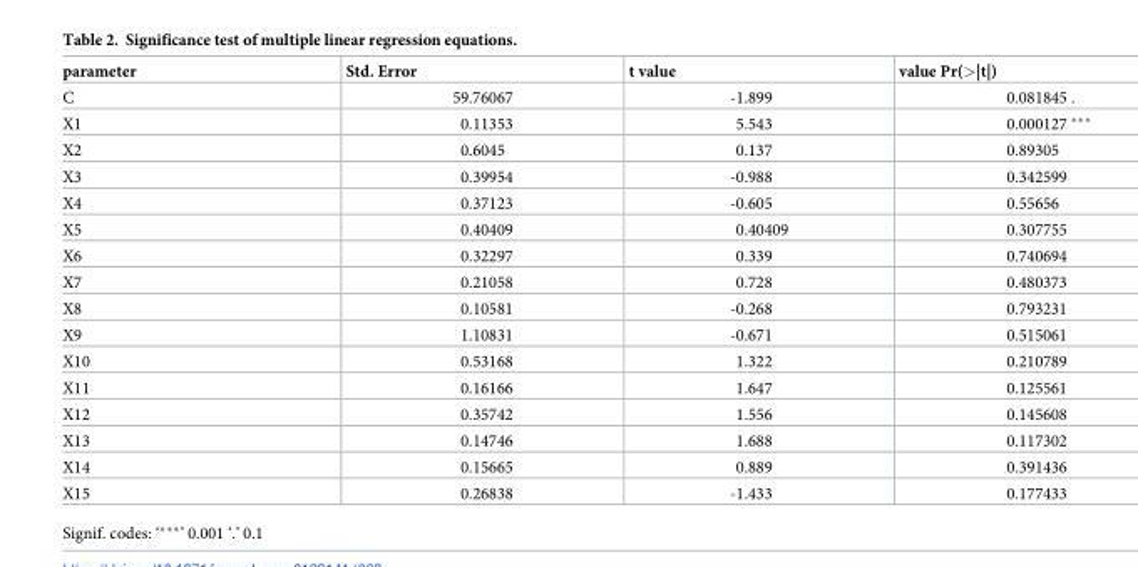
<table><thead><tr><td>parameter</td><td>Std. Error</td><td>t value</td><td>value Pr(&gt;|t|)</td></tr></thead><tbody><tr><td>C</td><td>59.76067</td><td>-1.899</td><td>0.081845 .</td></tr><tr><td>X1</td><td>0.11353</td><td>5.543</td><td>0.000127</td></tr><tr><td>X2</td><td>0.6045</td><td>0.137</td><td>0.89305</td></tr><tr><td>X3</td><td>0.39954</td><td>-0.988</td><td>0.342599</td></tr><tr><td>X4</td><td>0.37123</td><td>-0.605</td><td>0.55656</td></tr><tr><td>X5</td><td>0.40409</td><td>0.40409</td><td>0.307755</td></tr><tr><td>X6</td><td>0.32297</td><td>0.339</td><td>0.740694</td></tr><tr><td>X7</td><td>0.21058</td><td>0.728</td><td>0.480373</td></tr><tr><td>X8</td><td>0.10581</td><td>-0.268</td><td>0.793231</td></tr><tr><td>X9</td><td>1.10831</td><td>-0.671</td><td>0.515061</td></tr><tr><td>X10</td><td>0.53168</td><td>1.322</td><td>0.210789</td></tr><tr><td>X11</td><td>0.16166</td><td>1.647</td><td>0.125561</td></tr><tr><td>X12</td><td>0.35742</td><td>1.556</td><td>0.145608</td></tr><tr><td>X13</td><td>0.14746</td><td>1.688</td><td>0.117302</td></tr><tr><td>X14</td><td>0.15665</td><td>0.889</td><td>0.391436</td></tr><tr><td>X15</td><td>0.26838</td><td>-1.433</td><td>0.177433</td></tr></tbody></table>